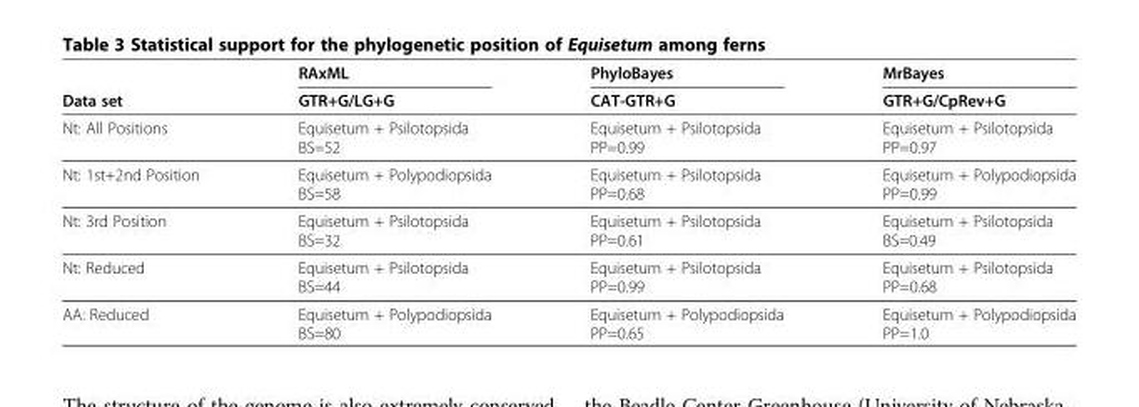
<table><thead><tr><td rowspan="2">Data set</td><td rowspan="2">RAxML GTR+G/LG+G</td><td rowspan="2">PhyloBayes CAT-GTR+G</td><td rowspan="2">MrBayes GTR+G/CpRev+G</td></tr><tr></tr></thead><tbody><tr><td rowspan="2">Nt: All Positions</td><td>Equisetum + Psilotopsida</td><td>Equisetum + Psilotopsida</td><td>Equisetum + Psilotopsida</td></tr><tr><td>BS=52</td><td>PP=0.99</td><td>PP=0.97</td></tr><tr><td rowspan="2">Nt: 1st+2nd Position</td><td>Equisetum + Polypodiopsida</td><td>Equisetum + Psilotopsida</td><td>Equisetum + Polypodiopsida</td></tr><tr><td>BS=58</td><td>PP=0.68</td><td>PP=0.99</td></tr><tr><td rowspan="2">Nt: 3rd Position</td><td>Equisetum + Psilotopsida</td><td>Equisetum + Psilotopsida</td><td>Equisetum + Psilotopsida</td></tr><tr><td>BS=32</td><td>PP=0.61</td><td>BS=0.49</td></tr><tr><td rowspan="2">Nt: Reduced</td><td>Equisetum + Psilotopsida</td><td>Equisetum + Psilotopsida</td><td>Equisetum + Psilotopsida</td></tr><tr><td>BS=44</td><td>PP=0.99</td><td>PP=0.68</td></tr><tr><td rowspan="2">AA: Reduced</td><td>Equisetum + Polypodiopsida</td><td>Equisetum + Polypodiopsida</td><td>Equisetum + Polypodiopsida</td></tr><tr><td>BS=80</td><td>PP=0.65</td><td>PP=1.0</td></tr></tbody></table>